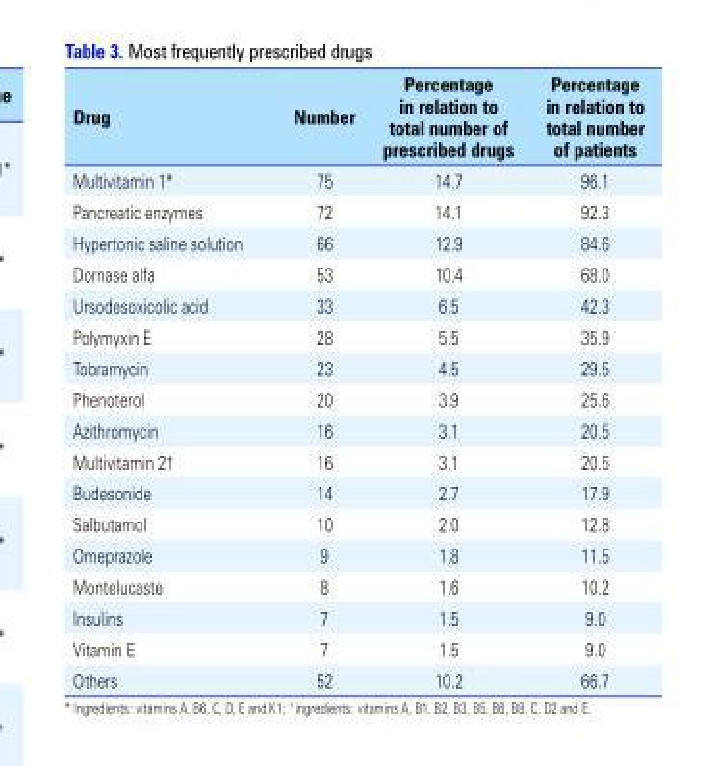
<table><thead><tr><td>Drug</td><td>Number</td><td>Percentage in relation to total number of prescribed drugs</td><td>Percentage in relation to total number of patients</td></tr></thead><tbody><tr><td>Multivitamin 1*</td><td>75</td><td>14.7</td><td>96.1</td></tr><tr><td>Pancreatic enzymes</td><td>72</td><td>14.1</td><td>92.3</td></tr><tr><td>Hypertonic saline solution</td><td>66</td><td>12.9</td><td>84.6</td></tr><tr><td>Dornase alfa</td><td>53</td><td>10.4</td><td>68.0</td></tr><tr><td>Ursodesoxicolic acid</td><td>33</td><td>6.5</td><td>42.3</td></tr><tr><td>Polymyxin E</td><td>28</td><td>5.5</td><td>35.9</td></tr><tr><td>Tobramycin</td><td>23</td><td>4.5</td><td>29.5</td></tr><tr><td>Phenoterol</td><td>20</td><td>3.9</td><td>25.6</td></tr><tr><td>Azithromycin</td><td>16</td><td>3.1</td><td>20.5</td></tr><tr><td>Multivitamin 2†</td><td>16</td><td>3.1</td><td>20.5</td></tr><tr><td>Budesonide</td><td>14</td><td>2.7</td><td>17.9</td></tr><tr><td>Salbutamol</td><td>10</td><td>2.0</td><td>12.8</td></tr><tr><td>Omeprazole</td><td>9</td><td>1.8</td><td>11.5</td></tr><tr><td>Montelucaste</td><td>8</td><td>1.6</td><td>10.2</td></tr><tr><td>Insulins</td><td>7</td><td>1.5</td><td>9.0</td></tr><tr><td>Vitamin E</td><td>7</td><td>1.5</td><td>9.0</td></tr><tr><td>Others</td><td>52</td><td>10.2</td><td>66.7</td></tr></tbody></table>